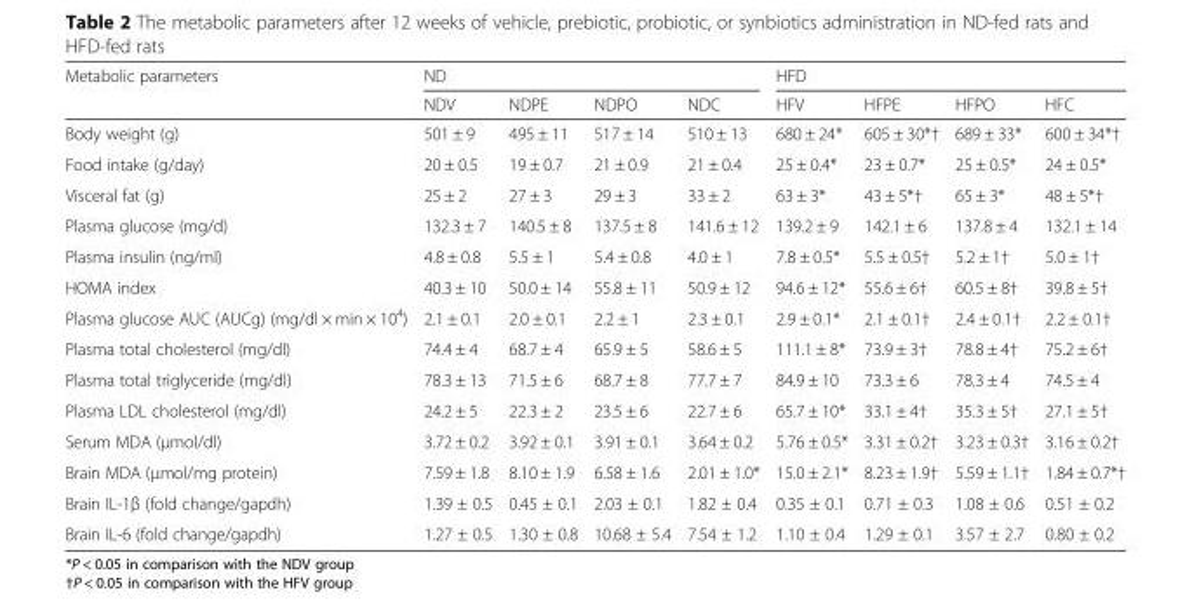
<table><thead><tr><td rowspan="2">Metabolic parameters</td><td colspan="4">ND</td><td colspan="4">HFD</td></tr><tr><td>NDV</td><td>NDPE</td><td>NDPO</td><td>NDC</td><td>HFV</td><td>HFPE</td><td>HFPO</td><td>HFC</td></tr></thead><tbody><tr><td>Body weight (g)</td><td>501 ± 9</td><td>495 ± 11</td><td>517 ± 14</td><td>510 ± 13</td><td>680 ± 24*</td><td>605 ± 30*†</td><td>689 ± 33*</td><td>600 ± 34*†</td></tr><tr><td>Food intake (g/day)</td><td>20 ± 0.5</td><td>19 ± 0.7</td><td>21 ± 0.9</td><td>21 ± 0.4</td><td>25 ± 0.4*</td><td>23 ± 0.7*</td><td>25 ± 0.5*</td><td>24 ± 0.5*</td></tr><tr><td>Visceral fat (g)</td><td>25 ± 2</td><td>27 ± 3</td><td>29 ± 3</td><td>33 ± 2</td><td>63 ± 3*</td><td>43 ± 5*†</td><td>65 ± 3*</td><td>48 ± 5*†</td></tr><tr><td>Plasma glucose (mg/d)</td><td>132.3 ± 7</td><td>140.5 ± 8</td><td>137.5 ± 8</td><td>141.6 ± 12</td><td>139.2 ± 9</td><td>142.1 ± 6</td><td>137.8 ± 4</td><td>132.1 ± 14</td></tr><tr><td>Plasma insulin (ng/ml)</td><td>4.8 ± 0.8</td><td>5.5 ± 1</td><td>5.4 ± 0.8</td><td>4.0 ± 1</td><td>7.8 ± 0.5*</td><td>5.5 ± 0.5†</td><td>5.2 ± 1†</td><td>5.0 ± 1†</td></tr><tr><td>HOMA index</td><td>40.3 ± 10</td><td>50.0 ± 14</td><td>55.8 ± 11</td><td>50.9 ± 12</td><td>94.6 ± 12*</td><td>55.6 ± 6†</td><td>60.5 ± 8†</td><td>39.8 ± 5†</td></tr><tr><td>Plasma glucose AUC (AUCg) (mg/dl × min × 10<sup>4</sup>)</td><td>2.1 ± 0.1</td><td>2.0 ± 0.1</td><td>2.2 ± 1</td><td>2.3 ± 0.1</td><td>2.9 ± 0.1*</td><td>2.1 ± 0.1†</td><td>2.4 ± 0.1†</td><td>2.2 ± 0.1†</td></tr><tr><td>Plasma total cholesterol (mg/dl)</td><td>74.4 ± 4</td><td>68.7 ± 4</td><td>65.9 ± 5</td><td>58.6 ± 5</td><td>111.1 ± 8*</td><td>73.9 ± 3†</td><td>78.8 ± 4†</td><td>75.2 ± 6†</td></tr><tr><td>Plasma total triglyceride (mg/dl)</td><td>78.3 ± 13</td><td>71.5 ± 6</td><td>68.7 ± 8</td><td>77.7 ± 7</td><td>84.9 ± 10</td><td>73.3 ± 6</td><td>78.3 ± 4</td><td>74.5 ± 4</td></tr><tr><td>Plasma LDL cholesterol (mg/dl)</td><td>24.2 ± 5</td><td>22.3 ± 2</td><td>23.5 ± 6</td><td>22.7 ± 6</td><td>65.7 ± 10*</td><td>33.1 ± 4†</td><td>35.3 ± 5†</td><td>27.1 ± 5†</td></tr><tr><td>Serum MDA (μmol/dl)</td><td>3.72 ± 0.2</td><td>3.92 ± 0.1</td><td>3.91 ± 0.1</td><td>3.64 ± 0.2</td><td>5.76 ± 0.5*</td><td>3.31 ± 0.2†</td><td>3.23 ± 0.3†</td><td>3.16 ± 0.2†</td></tr><tr><td>Brain MDA (μmol/mg protein)</td><td>7.59 ± 1.8</td><td>8.10 ± 1.9</td><td>6.58 ± 1.6</td><td>2.01 ± 1.0*</td><td>15.0 ± 2.1*</td><td>8.23 ± 1.9†</td><td>5.59 ± 1.1†</td><td>1.84 ± 0.7*†</td></tr><tr><td>Brain IL-1β (fold change/gapdh)</td><td>1.39 ± 0.5</td><td>0.45 ± 0.1</td><td>2.03 ± 0.1</td><td>1.82 ± 0.4</td><td>0.35 ± 0.1</td><td>0.71 ± 0.3</td><td>1.08 ± 0.6</td><td>0.51 ± 0.2</td></tr><tr><td>Brain IL-6 (fold change/gapdh)</td><td>1.27 ± 0.5</td><td>1.30 ± 0.8</td><td>10.68 ± 5.4</td><td>7.54 ± 1.2</td><td>1.10 ± 0.4</td><td>1.29 ± 0.1</td><td>3.57 ± 2.7</td><td>0.80 ± 0.2</td></tr></tbody></table>